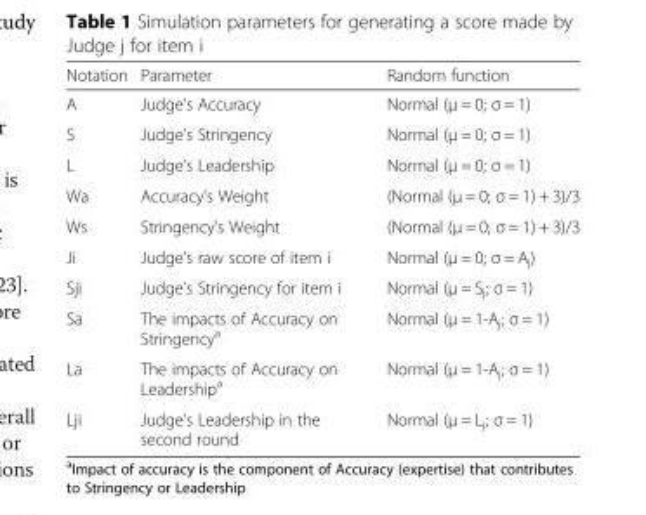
<table><thead><tr><td>Notation</td><td>Parameter</td><td>Random function</td></tr></thead><tbody><tr><td>A</td><td>Judge’s Accuracy</td><td>Normal (μ = 0; σ = 1)</td></tr><tr><td>S</td><td>Judge’s Stringency</td><td>Normal (μ = 0; σ = 1)</td></tr><tr><td>L</td><td>Judge’s Leadership</td><td>Normal (μ = 0; σ = 1)</td></tr><tr><td>Wa</td><td>Accuracy’s Weight</td><td>(Normal (μ = 0; σ = 1) + 3)/3</td></tr><tr><td>Ws</td><td>Stringency’s Weight</td><td>(Normal (μ = 0; σ = 1) + 3)/3</td></tr><tr><td>Ji</td><td>Judge’s raw score of item i</td><td>Normal (μ = 0; σ = A<sub>j</sub>)</td></tr><tr><td>Sji</td><td>Judge’s Stringency for item i</td><td>Normal (μ = S<sub>j</sub>; σ = 1)</td></tr><tr><td>Sa</td><td>The impacts of Accuracy on Stringency<sup>a</sup></td><td>Normal (μ = 1-A<sub>j</sub>; σ = 1)</td></tr><tr><td>La</td><td>The impacts of Accuracy on Leadership<sup>a</sup></td><td>Normal (μ = 1-A<sub>j</sub>; σ = 1)</td></tr><tr><td>Lji</td><td>Judge’s Leadership in the second round</td><td>Normal (μ = L<sub>j</sub>; σ = 1)</td></tr></tbody></table>